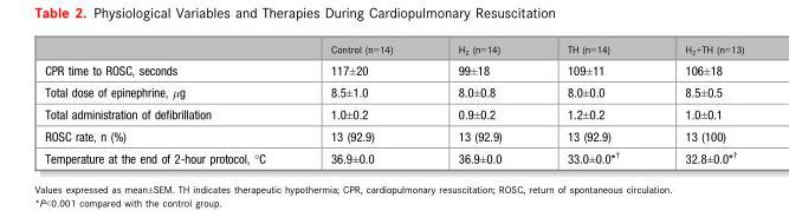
<table><thead><tr><td></td><td>Control (n=14)</td><td>H<sub>2</sub> (n=14)</td><td>TH (n=14)</td><td>H<sub>2</sub>+TH (n=13)</td></tr></thead><tbody><tr><td>CPR time to ROSC, seconds</td><td>117±20</td><td>99±18</td><td>109±11</td><td>106±18</td></tr><tr><td>Total dose of epinephrine, μg</td><td>8.5±1.0</td><td>8.0±0.8</td><td>8.0±0.0</td><td>8.5±0.5</td></tr><tr><td>Total administration of defibrillation</td><td>1.0±0.2</td><td>0.9±0.2</td><td>1.2±0.2</td><td>1.0±0.1</td></tr><tr><td>ROSC rate, n (%)</td><td>13 (92.9)</td><td>13 (92.9)</td><td>13 (92.9)</td><td>13 (100)</td></tr><tr><td>Temperature at the end of 2-hour protocol, °C</td><td>36.9±0.0</td><td>36.9±0.0</td><td>33.0±0.0*†</td><td>32.8±0.0*†</td></tr></tbody></table>